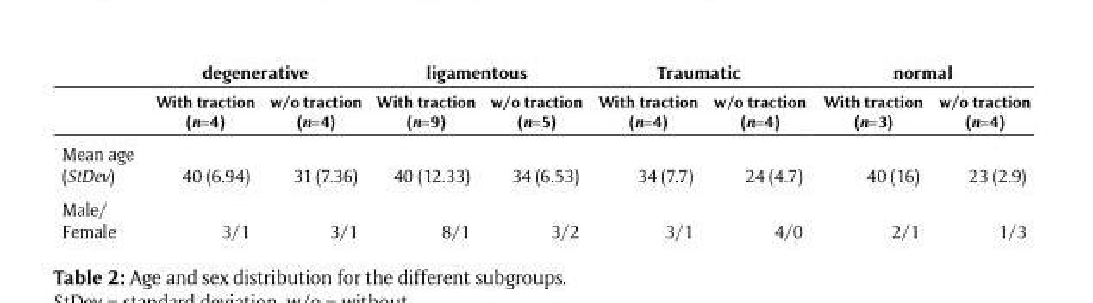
<table><thead><tr><td rowspan="2"></td><td colspan="2">degenerative</td><td colspan="2">ligamentous</td><td colspan="2">Traumatic</td><td colspan="2">normal</td></tr><tr><td>With traction (n=4)</td><td>w/o traction (n=4)</td><td>With traction (n=9)</td><td>w/o traction (n=5)</td><td>With traction (n=4)</td><td>w/o traction (n=4)</td><td>With traction (n=3)</td><td>w/o traction (n=4)</td></tr></thead><tbody><tr><td>Mean age (StDev)</td><td>40 (6.94)</td><td>31 (7.36)</td><td>40 (12.33)</td><td>34 (6.53)</td><td>34 (7.7)</td><td>24 (4.7)</td><td>40 (16)</td><td>23 (2.9)</td></tr><tr><td>Male/ Female</td><td>3/1</td><td>3/1</td><td>8/1</td><td>3/2</td><td>3/1</td><td>4/0</td><td>2/1</td><td>1/3</td></tr></tbody></table>